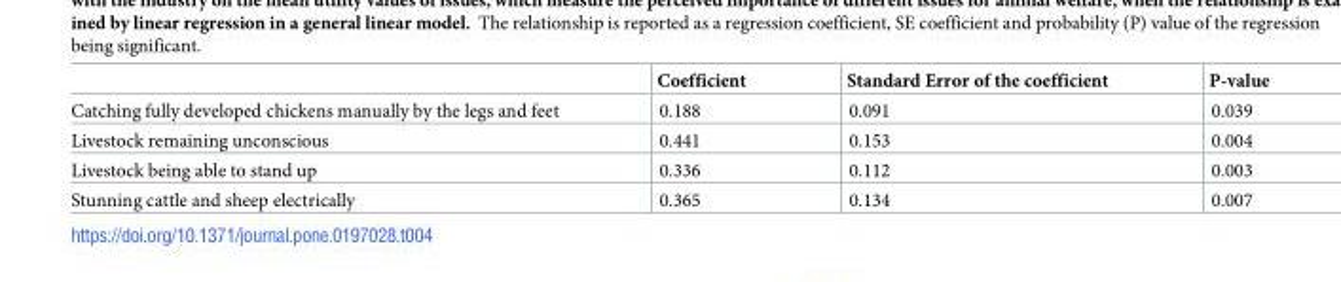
<table><thead><tr><td></td><td>Coefficient</td><td>Standard Error of the coefficient</td><td>P-value</td></tr></thead><tbody><tr><td>Catching fully developed chickens manually by the legs and feet</td><td>0.188</td><td>0.091</td><td>0.039</td></tr><tr><td>Livestock remaining unconscious</td><td>0.441</td><td>0.153</td><td>0.004</td></tr><tr><td>Livestock being able to stand up</td><td>0.336</td><td>0.112</td><td>0.003</td></tr><tr><td>Stunning cattle and sheep electrically</td><td>0.365</td><td>0.134</td><td>0.007</td></tr></tbody></table>